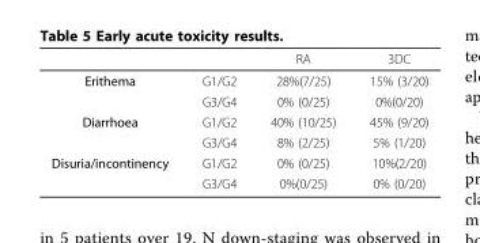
<table><thead><tr><td></td><td></td><td>RA</td><td>3DC</td></tr></thead><tbody><tr><td rowspan="2">Erithema</td><td>G1/G2</td><td>28%(7/25)</td><td>15% (3/20)</td></tr><tr><td>G3/G4</td><td>0% (0/25)</td><td>0%(0/20)</td></tr><tr><td rowspan="2">Diarrhoea</td><td>G1/G2</td><td>40% (10/25)</td><td>45% (9/20)</td></tr><tr><td>G3/G4</td><td>8% (2/25)</td><td>5% (1/20)</td></tr><tr><td rowspan="2">Disuria/incontinency</td><td>G1/G2</td><td>0% (0/25)</td><td>10%(2/20)</td></tr><tr><td>G3/G4</td><td>0%(0/25)</td><td>0% (0/20)</td></tr></tbody></table>